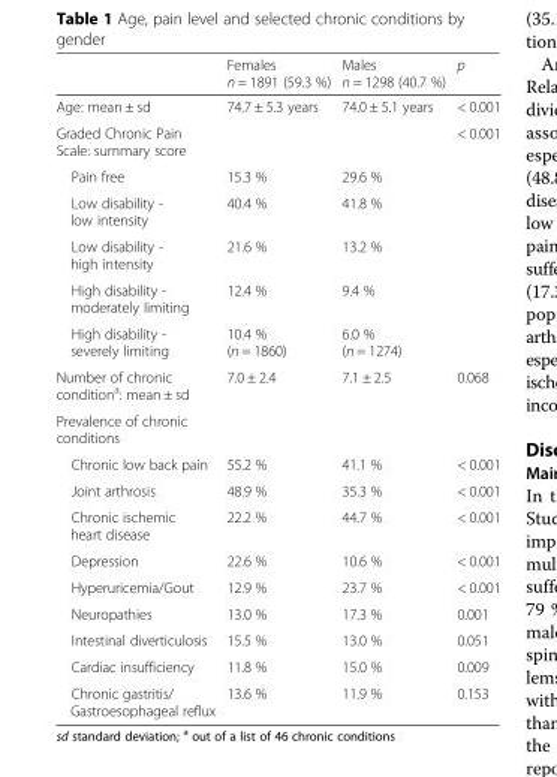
<table><thead><tr><td></td><td>Females n = 1891 (59.3 %)</td><td>Males n = 1298 (40.7 %)</td><td>p</td></tr></thead><tbody><tr><td>Age: mean ± sd</td><td>74.7 ± 5.3 years</td><td>74.0 ± 5.1 years</td><td>&lt; 0.001</td></tr><tr><td colspan="3">Graded Chronic Pain Scale: summary score</td><td rowspan="6">&lt; 0.001</td></tr><tr><td>Pain free</td><td>15.3 %</td><td>29.6 %</td></tr><tr><td>Low disability - low intensity</td><td>40.4 %</td><td>41.8 %</td></tr><tr><td>Low disability - high intensity</td><td>21.6 %</td><td>13.2 %</td></tr><tr><td>High disability - moderately limiting</td><td>12.4 %</td><td>9.4 %</td></tr><tr><td>High disability - severely limiting</td><td>10.4 % (n = 1860)</td><td>6.0 % (n = 1274)</td></tr><tr><td>Number of chronic condition<sup>a</sup>: mean ± sd</td><td>7.0 ± 2.4</td><td>7.1 ± 2.5</td><td>0.068</td></tr><tr><td colspan="4">Prevalence of chronic conditions</td></tr><tr><td>Chronic low back pain</td><td>55.2 %</td><td>41.1 %</td><td>&lt; 0.001</td></tr><tr><td>Joint arthrosis</td><td>48.9 %</td><td>35.3 %</td><td>&lt; 0.001</td></tr><tr><td>Chronic ischemic heart disease</td><td>22.2 %</td><td>44.7 %</td><td>&lt; 0.001</td></tr><tr><td>Depression</td><td>22.6 %</td><td>10.6 %</td><td>&lt; 0.001</td></tr><tr><td>Hyperuricemia/Gout</td><td>12.9 %</td><td>23.7 %</td><td>&lt; 0.001</td></tr><tr><td>Neuropathies</td><td>13.0 %</td><td>17.3 %</td><td>0.001</td></tr><tr><td>Intestinal diverticulosis</td><td>15.5 %</td><td>13.0 %</td><td>0.051</td></tr><tr><td>Cardiac insufficiency</td><td>11.8 %</td><td>15.0 %</td><td>0.009</td></tr><tr><td>Chronic gastritis/ Gastroesophageal reflux</td><td>13.6 %</td><td>11.9 %</td><td>0.153</td></tr></tbody></table>